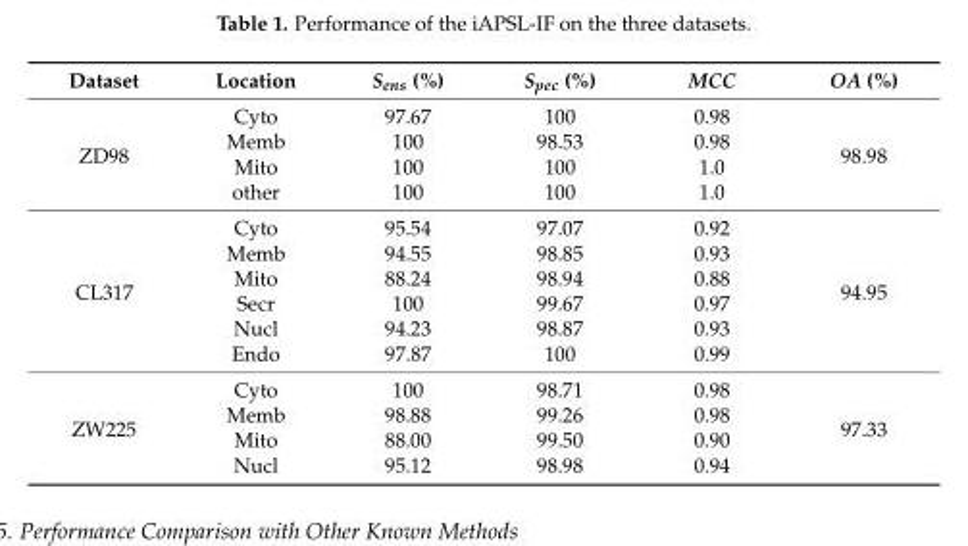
<table><thead><tr><td>Dataset</td><td>Location</td><td>S<sub>ens</sub> (%)</td><td>S<sub>pec</sub> (%)</td><td>MCC</td><td>OA (%)</td></tr></thead><tbody><tr><td rowspan="4">ZD98</td><td>Cyto</td><td>97.67</td><td>100</td><td>0.98</td><td rowspan="4">98.98</td></tr><tr><td>Memb</td><td>100</td><td>98.53</td><td>0.98</td></tr><tr><td>Mito</td><td>100</td><td>100</td><td>1.0</td></tr><tr><td>other</td><td>100</td><td>100</td><td>1.0</td></tr><tr><td rowspan="6">CL317</td><td>Cyto</td><td>95.54</td><td>97.07</td><td>0.92</td><td rowspan="6">94.95</td></tr><tr><td>Memb</td><td>94.55</td><td>98.85</td><td>0.93</td></tr><tr><td>Mito</td><td>88.24</td><td>98.94</td><td>0.88</td></tr><tr><td>Secr</td><td>100</td><td>99.67</td><td>0.97</td></tr><tr><td>Nucl</td><td>94.23</td><td>98.87</td><td>0.93</td></tr><tr><td>Endo</td><td>97.87</td><td>100</td><td>0.99</td></tr><tr><td rowspan="4">ZW225</td><td>Cyto</td><td>100</td><td>98.71</td><td>0.98</td><td rowspan="4">97.33</td></tr><tr><td>Memb</td><td>98.88</td><td>99.26</td><td>0.98</td></tr><tr><td>Mito</td><td>88.00</td><td>99.50</td><td>0.90</td></tr><tr><td>Nucl</td><td>95.12</td><td>98.98</td><td>0.94</td></tr></tbody></table>